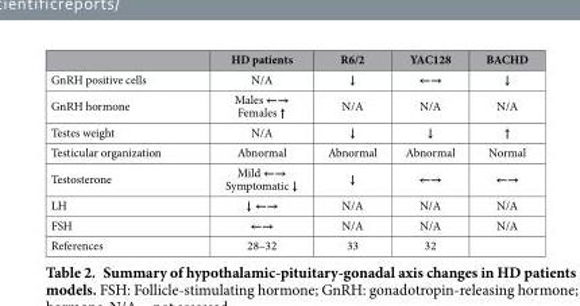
<table><thead><tr><td></td><td>HD patients</td><td>R6/2</td><td>YAC128</td><td>BACHD</td></tr></thead><tbody><tr><td>GnRH positive cells</td><td>N/A</td><td>↓</td><td>←→</td><td>↓</td></tr><tr><td>GnRH hormone</td><td>Males ←→ Females ↑</td><td>N/A</td><td>N/A</td><td>N/A</td></tr><tr><td>Testes weight</td><td>N/A</td><td>↓</td><td>↓</td><td>↑</td></tr><tr><td>Testicular organization</td><td>Abnormal</td><td>Abnormal</td><td>Abnormal</td><td>Normal</td></tr><tr><td>Testosterone</td><td>Mild ←→ Symptomatic ↓</td><td>↓</td><td>←→</td><td>←→</td></tr><tr><td>LH</td><td>↓ ←→</td><td>N/A</td><td>N/A</td><td>N/A</td></tr><tr><td>FSH</td><td>←→</td><td>N/A</td><td>N/A</td><td>N/A</td></tr><tr><td>References</td><td>28–32</td><td>33</td><td>32</td><td></td></tr></tbody></table>